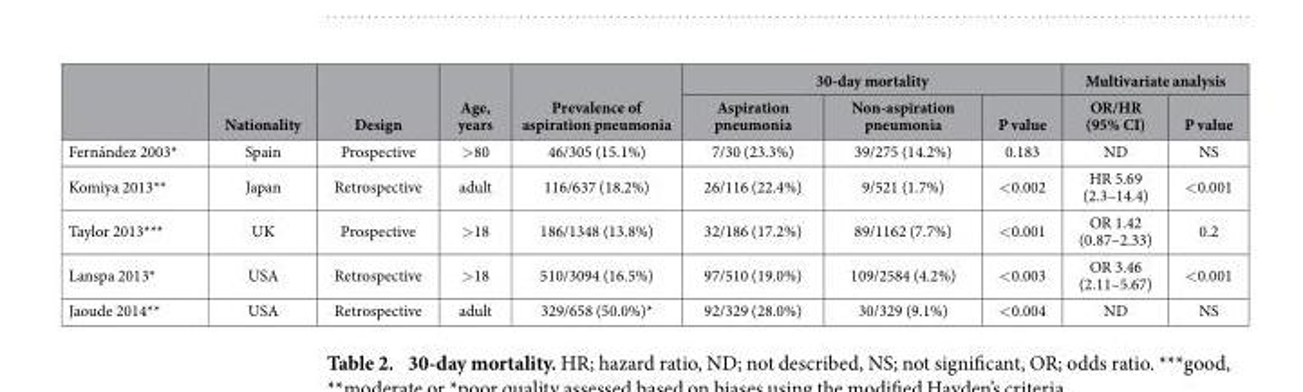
<table><thead><tr><td rowspan="2"></td><td rowspan="2">Nationality</td><td rowspan="2">Design</td><td rowspan="2">Age, years</td><td rowspan="2">Prevalence of aspiration pneumonia</td><td colspan="3">30-day mortality</td><td colspan="2">Multivariate analysis</td></tr><tr><td>Aspiration pneumonia</td><td>Non-aspiration pneumonia</td><td>P value</td><td>OR/HR (95% CI)</td><td>P value</td></tr></thead><tbody><tr><td>Fernández 2003*</td><td>Spain</td><td>Prospective</td><td>&gt; 80</td><td>46/305 (15.1%)</td><td>7/30 (23.3%)</td><td>39/275 (14.2%)</td><td>0.183</td><td>ND</td><td>NS</td></tr><tr><td>Komiya 2013**</td><td>Japan</td><td>Retrospective</td><td>adult</td><td>116/637 (18.2%)</td><td>26/116 (22.4%)</td><td>9/521 (1.7%)</td><td>&lt; 0.002</td><td>HR 5.69 (2.3–14.4)</td><td>&lt; 0.001</td></tr><tr><td>Taylor 2013***</td><td>UK</td><td>Prospective</td><td>&gt; 18</td><td>186/1348 (13.8%)</td><td>32/186 (17.2%)</td><td>89/1162 (7.7%)</td><td>&lt; 0.001</td><td>OR 1.42 (0.87–2.33)</td><td>0.2</td></tr><tr><td>Lanspa 2013*</td><td>USA</td><td>Retrospective</td><td>&gt; 18</td><td>510/3094 (16.5%)</td><td>97/510 (19.0%)</td><td>109/2584 (4.2%)</td><td>&lt; 0.003</td><td>OR 3.46 (2.11–5.67)</td><td>&lt; 0.001</td></tr><tr><td>Jaoude 2014**</td><td>USA</td><td>Retrospective</td><td>adult</td><td>329/658 (50.0%)*</td><td>92/329 (28.0%)</td><td>30/329 (9.1%)</td><td>&lt; 0.004</td><td>ND</td><td>NS</td></tr></tbody></table>